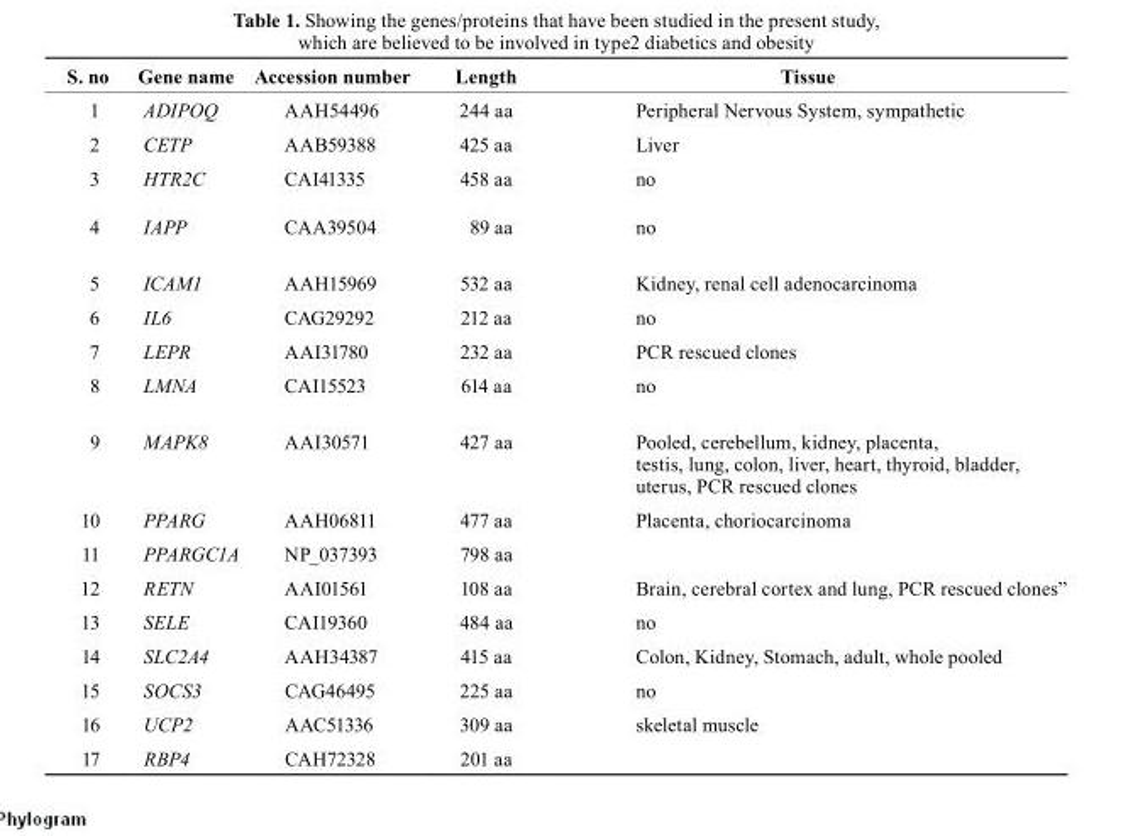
<table><thead><tr><td>s. no</td><td>gene name</td><td>Accession number</td><td>length</td><td>tissue</td></tr></thead><tbody><tr><td>1</td><td>ADIPOQ</td><td>AAH54496</td><td>244 aa</td><td>Peripheral Nervous System, sympathetic</td></tr><tr><td>2</td><td>CETP</td><td>AAB59388</td><td>425 aa</td><td>Liver</td></tr><tr><td>3</td><td>HTR2C</td><td>CAI41335</td><td>458 aa</td><td>no</td></tr><tr><td>4</td><td>IAPP</td><td>CAA39504</td><td>89 aa</td><td>no</td></tr><tr><td>5</td><td>ICAM1</td><td>AAH15969</td><td>532 aa</td><td>Kidney, renal cell adenocarcinoma</td></tr><tr><td>6</td><td>IL6</td><td>CAG29292</td><td>212 aa</td><td>no</td></tr><tr><td>7</td><td>LEPR</td><td>AAI31780</td><td>232 aa</td><td>PCR rescued clones</td></tr><tr><td>8</td><td>LMNA</td><td>CAI15523</td><td>614 aa</td><td>no</td></tr><tr><td>9</td><td>MAPK8</td><td>AAI30571</td><td>427 aa</td><td>Pooled, cerebellum, kidney, placenta, testis, lung, colon, liver, heart, thyroid, bladder, uterus, PCR rescued clones</td></tr><tr><td>10</td><td>PPARG</td><td>AAH06811</td><td>477 aa</td><td>Placenta, choriocarcinoma</td></tr><tr><td>11</td><td>PPARGC1A</td><td>NP_037393</td><td>798 aa</td><td></td></tr><tr><td>12</td><td>RETN</td><td>AAI01561</td><td>108 aa</td><td>Brain, cerebral cortex and lung, PCR rescued clones”</td></tr><tr><td>13</td><td>SELE</td><td>CAI19360</td><td>484 aa</td><td>no</td></tr><tr><td>14</td><td>SLC2A4</td><td>AAH34387</td><td>415 aa</td><td>Colon, Kidney, Stomach, adult, whole pooled</td></tr><tr><td>15</td><td>SOCS3</td><td>CAG46495</td><td>225 aa</td><td>no</td></tr><tr><td>16</td><td>UCP2</td><td>AAC51336</td><td>309 aa</td><td>skeletal muscle</td></tr><tr><td>17</td><td>RBP4</td><td>CAH72328</td><td>201 aa</td><td></td></tr></tbody></table>